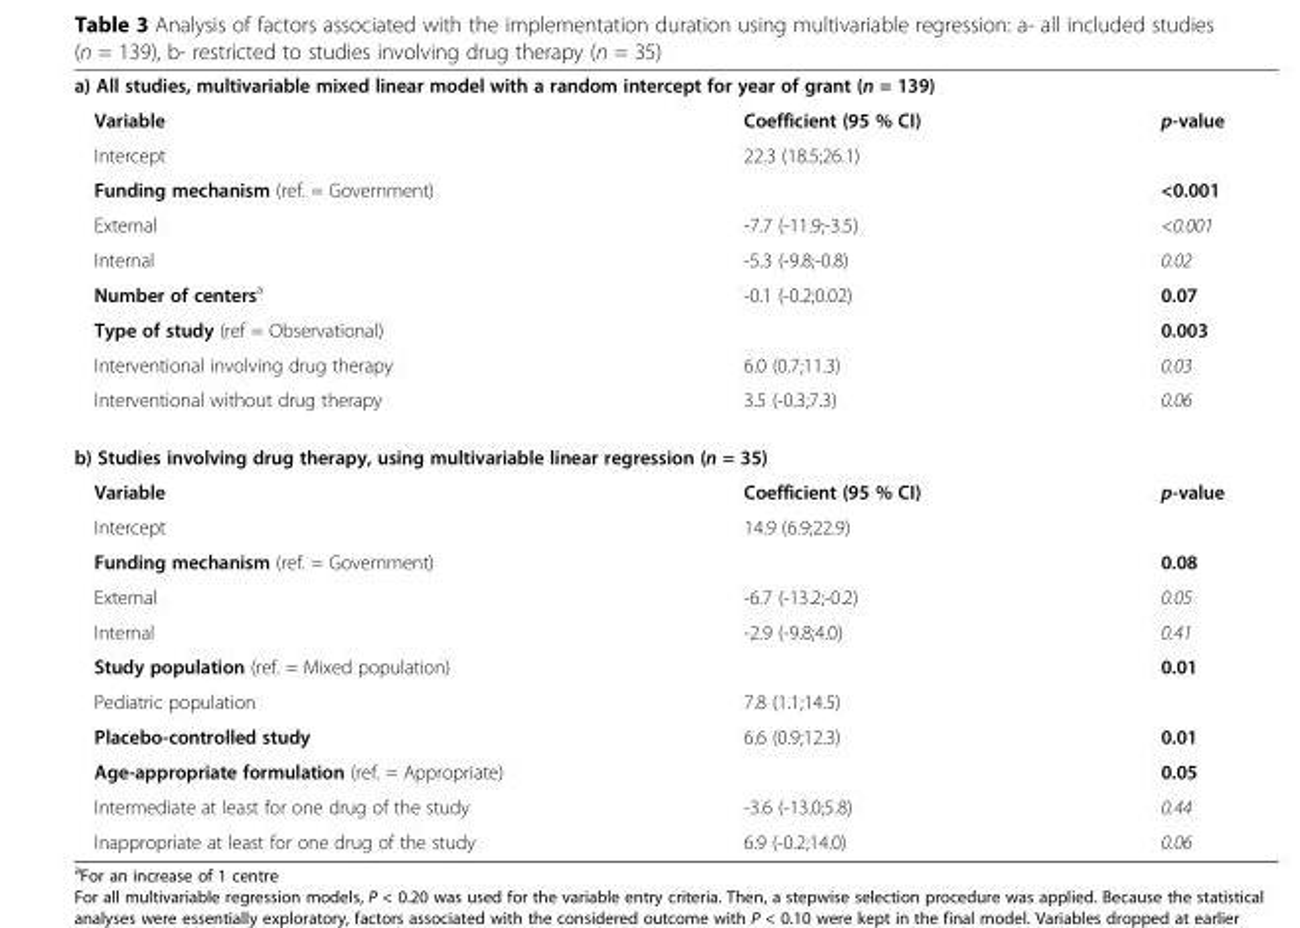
<table><tbody><tr><td colspan="3">a) All studies, multivariable mixed linear model with a random intercept for year of grant (n = 139)</td></tr><tr><td>Variable</td><td>Coefficient (95 % CI)</td><td>p-value</td></tr><tr><td>Intercept</td><td>22.3 (18.5;26.1)</td><td></td></tr><tr><td>Funding mechanism (ref. = Government)</td><td></td><td>&lt;0.001</td></tr><tr><td>External</td><td>-7.7 (-11.9;-3.5)</td><td>&lt;0.001</td></tr><tr><td>Internal</td><td>-5.3 (-9.8;-0.8)</td><td>0.02</td></tr><tr><td>Number of centers<sup>a</sup></td><td>-0.1 (-0.2;0.02)</td><td>0.07</td></tr><tr><td>Type of study (ref = Observational)</td><td></td><td>0.003</td></tr><tr><td>Interventional involving drug therapy</td><td>6.0 (0.7;11.3)</td><td>0.03</td></tr><tr><td>Interventional without drug therapy</td><td>3.5 (-0.3;7.3)</td><td>0.06</td></tr><tr><td colspan="3">b) Studies involving drug therapy, using multivariable linear regression (n = 35)</td></tr><tr><td>Variable</td><td>Coefficient (95 % CI)</td><td>p-value</td></tr><tr><td>Intercept</td><td>14.9 (6.9;22.9)</td><td></td></tr><tr><td>Funding mechanism (ref. = Government)</td><td></td><td>0.08</td></tr><tr><td>External</td><td>-6.7 (-13.2;-0.2)</td><td>0.05</td></tr><tr><td>Internal</td><td>-2.9 (-9.8;4.0)</td><td>0.41</td></tr><tr><td>Study population (ref. = Mixed population)</td><td></td><td>0.01</td></tr><tr><td>Pediatric population</td><td>7.8 (1.1;14.5)</td><td></td></tr><tr><td>Placebo-controlled study</td><td>6.6 (0.9;12.3)</td><td>0.01</td></tr><tr><td>Age-appropriate formulation (ref. = Appropriate)</td><td></td><td>0.05</td></tr><tr><td>Intermediate at least for one drug of the study</td><td>-3.6 (-13.0;5.8)</td><td>0.44</td></tr><tr><td>Inappropriate at least for one drug of the study</td><td>6.9 (-0.2;14.0)</td><td>0.06</td></tr></tbody></table>